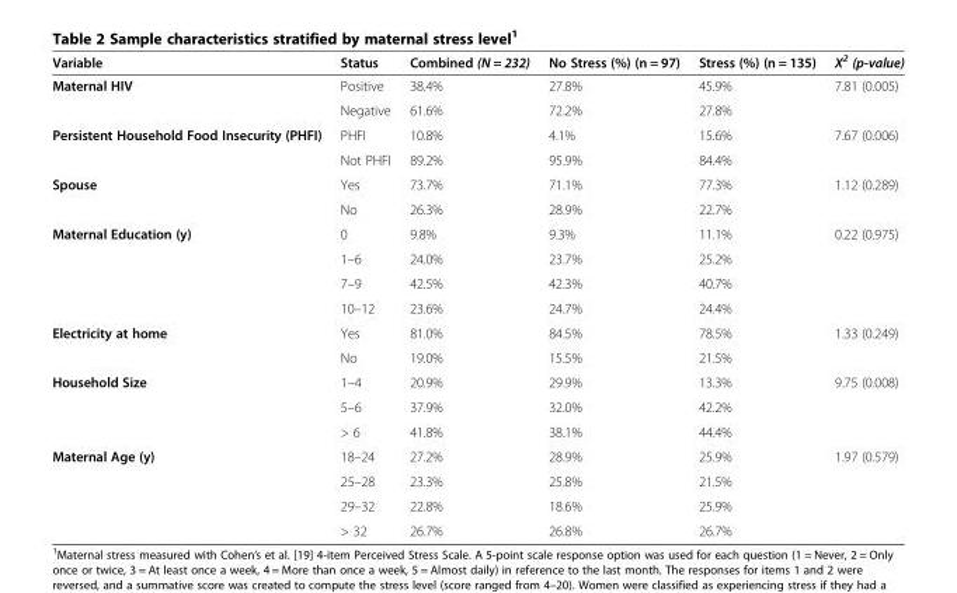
<table><thead><tr><td>Variable</td><td>Status</td><td>Combined (N = 232)</td><td>No Stress (%) (n = 97)</td><td>Stress (%) (n = 135)</td><td>X<sup>2</sup> (p-value)</td></tr></thead><tbody><tr><td rowspan="2">Maternal HIV</td><td>Positive</td><td>38.4%</td><td>27.8%</td><td>45.9%</td><td rowspan="2">7.81 (0.005)</td></tr><tr><td>Negative</td><td>61.6%</td><td>72.2%</td><td>27.8%</td></tr><tr><td rowspan="2">Persistent Household Food Insecurity (PHFI)</td><td>PHFI</td><td>10.8%</td><td>4.1%</td><td>15.6%</td><td rowspan="2">7.67 (0.006)</td></tr><tr><td>Not PHFI</td><td>89.2%</td><td>95.9%</td><td>84.4%</td></tr><tr><td rowspan="2">Spouse</td><td>Yes</td><td>73.7%</td><td>71.1%</td><td>77.3%</td><td rowspan="2">1.12 (0.289)</td></tr><tr><td>No</td><td>26.3%</td><td>28.9%</td><td>22.7%</td></tr><tr><td rowspan="4">Maternal Education (y)</td><td>0</td><td>9.8%</td><td>9.3%</td><td>11.1%</td><td rowspan="4">0.22 (0.975)</td></tr><tr><td>1–6</td><td>24.0%</td><td>23.7%</td><td>25.2%</td></tr><tr><td>7–9</td><td>42.5%</td><td>42.3%</td><td>40.7%</td></tr><tr><td>10–12</td><td>23.6%</td><td>24.7%</td><td>24.4%</td></tr><tr><td rowspan="2">Electricity at home</td><td>Yes</td><td>81.0%</td><td>84.5%</td><td>78.5%</td><td rowspan="2">1.33 (0.249)</td></tr><tr><td>No</td><td>19.0%</td><td>15.5%</td><td>21.5%</td></tr><tr><td rowspan="3">Household Size</td><td>1–4</td><td>20.9%</td><td>29.9%</td><td>13.3%</td><td rowspan="3">9.75 (0.008)</td></tr><tr><td>5–6</td><td>37.9%</td><td>32.0%</td><td>42.2%</td></tr><tr><td>&gt; 6</td><td>41.8%</td><td>38.1%</td><td>44.4%</td></tr><tr><td rowspan="4">Maternal Age (y)</td><td>18–24</td><td>27.2%</td><td>28.9%</td><td>25.9%</td><td>1.97 (0.579)</td></tr><tr><td>25–28</td><td>23.3%</td><td>25.8%</td><td>21.5%</td><td></td></tr><tr><td>29–32</td><td>22.8%</td><td>18.6%</td><td>25.9%</td><td></td></tr><tr><td>&gt; 32</td><td>26.7%</td><td>26.8%</td><td>26.7%</td><td></td></tr></tbody></table>